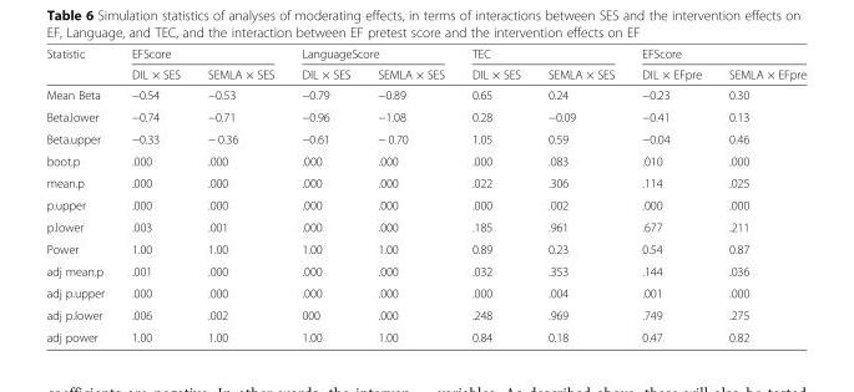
<table><thead><tr><td rowspan="2">Statistic</td><td colspan="2">EFScore</td><td colspan="2">LanguageScore</td><td colspan="2">TEC</td><td colspan="2">EFScore</td></tr><tr><td>DIL × SES</td><td>SEMLA × SES</td><td>DIL × SES</td><td>SEMLA × SES</td><td>DIL × SES</td><td>SEMLA × SES</td><td>DIL × EFpre</td><td>SEMLA × EFpre</td></tr></thead><tbody><tr><td>Mean Beta</td><td>−0.54</td><td>−0.53</td><td>−0.79</td><td>−0.89</td><td>0.65</td><td>0.24</td><td>−0.23</td><td>0.30</td></tr><tr><td>Beta.lower</td><td>−0.74</td><td>−0.71</td><td>−0.96</td><td>−1.08</td><td>0.28</td><td>−0.09</td><td>−0.41</td><td>0.13</td></tr><tr><td>Beta.upper</td><td>−0.33</td><td>− 0.36</td><td>−0.61</td><td>− 0.70</td><td>1.05</td><td>0.59</td><td>−0.04</td><td>0.46</td></tr><tr><td>boot.p</td><td>.000</td><td>.000</td><td>.000</td><td>.000</td><td>.000</td><td>.083</td><td>.010</td><td>.000</td></tr><tr><td>mean.p</td><td>.000</td><td>.000</td><td>.000</td><td>.000</td><td>.022</td><td>.306</td><td>.114</td><td>.025</td></tr><tr><td>p.upper</td><td>.000</td><td>.000</td><td>.000</td><td>.000</td><td>.000</td><td>.002</td><td>.000</td><td>.000</td></tr><tr><td>p.lower</td><td>.003</td><td>.001</td><td>.000</td><td>.000</td><td>.185</td><td>.961</td><td>.677</td><td>.211</td></tr><tr><td>Power</td><td>1.00</td><td>1.00</td><td>1.00</td><td>1.00</td><td>0.89</td><td>0.23</td><td>0.54</td><td>0.87</td></tr><tr><td>adj mean.p</td><td>.001</td><td>.000</td><td>.000</td><td>.000</td><td>.032</td><td>.353</td><td>.144</td><td>.036</td></tr><tr><td>adj p.upper</td><td>.000</td><td>.000</td><td>.000</td><td>.000</td><td>.000</td><td>.004</td><td>.001</td><td>.000</td></tr><tr><td>adj p.lower</td><td>.006</td><td>.002</td><td>000</td><td>.000</td><td>.248</td><td>.969</td><td>.749</td><td>.275</td></tr><tr><td>adj power</td><td>1.00</td><td>1.00</td><td>1.00</td><td>1.00</td><td>0.84</td><td>0.18</td><td>0.47</td><td>0.82</td></tr></tbody></table>